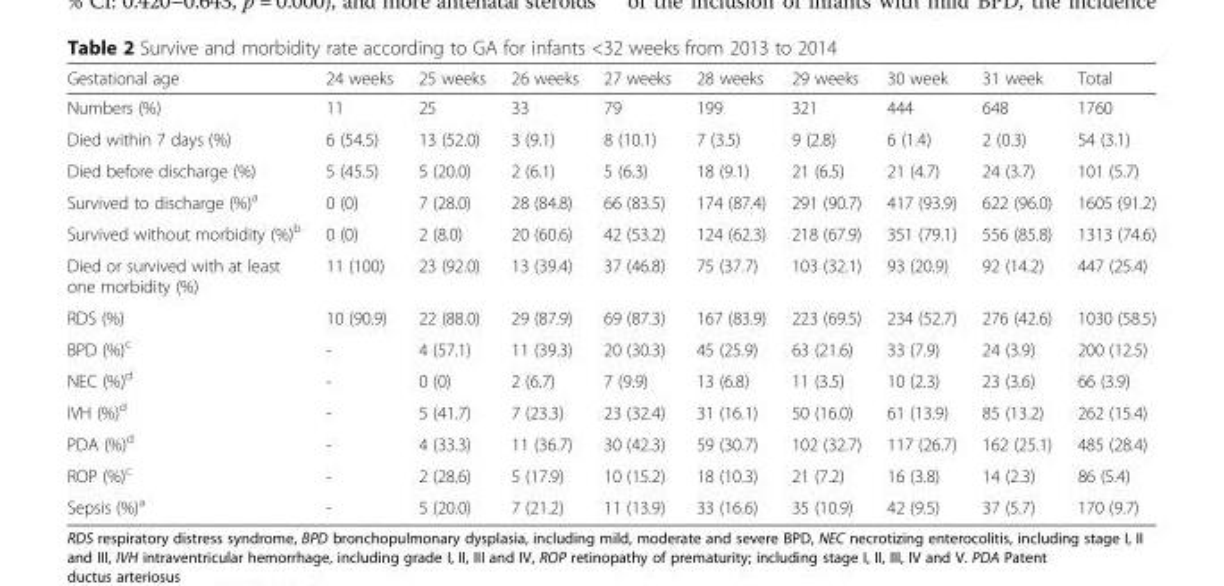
<table><thead><tr><td>Gestational age</td><td>24 weeks</td><td>25 weeks</td><td>26 weeks</td><td>27 weeks</td><td>28 weeks</td><td>29 weeks</td><td>30 week</td><td>31 week</td><td>Total</td></tr></thead><tbody><tr><td>Numbers (%)</td><td>11</td><td>25</td><td>33</td><td>79</td><td>199</td><td>321</td><td>444</td><td>648</td><td>1760</td></tr><tr><td>Died within 7 days (%)</td><td>6 (54.5)</td><td>13 (52.0)</td><td>3 (9.1)</td><td>8 (10.1)</td><td>7 (3.5)</td><td>9 (2.8)</td><td>6 (1.4)</td><td>2 (0.3)</td><td>54 (3.1)</td></tr><tr><td>Died before discharge (%)</td><td>5 (45.5)</td><td>5 (20.0)</td><td>2 (6.1)</td><td>5 (6.3)</td><td>18 (9.1)</td><td>21 (6.5)</td><td>21 (4.7)</td><td>24 (3.7)</td><td>101 (5.7)</td></tr><tr><td>Survived to discharge (%)<sup>a</sup></td><td>0 (0)</td><td>7 (28.0)</td><td>28 (84.8)</td><td>66 (83.5)</td><td>174 (87.4)</td><td>291 (90.7)</td><td>417 (93.9)</td><td>622 (96.0)</td><td>1605 (91.2)</td></tr><tr><td>Survived without morbidity (%)<sup>b</sup></td><td>0 (0)</td><td>2 (8.0)</td><td>20 (60.6)</td><td>42 (53.2)</td><td>124 (62.3)</td><td>218 (67.9)</td><td>351 (79.1)</td><td>556 (85.8)</td><td>1313 (74.6)</td></tr><tr><td>Died or survived with at least one morbidity (%)</td><td>11 (100)</td><td>23 (92.0)</td><td>13 (39.4)</td><td>37 (46.8)</td><td>75 (37.7)</td><td>103 (32.1)</td><td>93 (20.9)</td><td>92 (14.2)</td><td>447 (25.4)</td></tr><tr><td>RDS (%)</td><td>10 (90.9)</td><td>22 (88.0)</td><td>29 (87.9)</td><td>69 (87.3)</td><td>167 (83.9)</td><td>223 (69.5)</td><td>234 (52.7)</td><td>276 (42.6)</td><td>1030 (58.5)</td></tr><tr><td>BPD (%)<sup>c</sup></td><td>-</td><td>4 (57.1)</td><td>11 (39.3)</td><td>20 (30.3)</td><td>45 (25.9)</td><td>63 (21.6)</td><td>33 (7.9)</td><td>24 (3.9)</td><td>200 (12.5)</td></tr><tr><td>NEC (%)<sup>d</sup></td><td>-</td><td>0 (0)</td><td>2 (6.7)</td><td>7 (9.9)</td><td>13 (6.8)</td><td>11 (3.5)</td><td>10 (2.3)</td><td>23 (3.6)</td><td>66 (3.9)</td></tr><tr><td>IVH (%)<sup>d</sup></td><td>-</td><td>5 (41.7)</td><td>7 (23.3)</td><td>23 (32.4)</td><td>31 (16.1)</td><td>50 (16.0)</td><td>61 (13.9)</td><td>85 (13.2)</td><td>262 (15.4)</td></tr><tr><td>PDA (%)<sup>d</sup></td><td>-</td><td>4 (33.3)</td><td>11 (36.7)</td><td>30 (42.3)</td><td>59 (30.7)</td><td>102 (32.7)</td><td>117 (26.7)</td><td>162 (25.1)</td><td>485 (28.4)</td></tr><tr><td>ROP (%)<sup>c</sup></td><td>-</td><td>2 (28.6)</td><td>5 (17.9)</td><td>10 (15.2)</td><td>18 (10.3)</td><td>21 (7.2)</td><td>16 (3.8)</td><td>14 (2.3)</td><td>86 (5.4)</td></tr><tr><td>Sepsis (%)<sup>a</sup></td><td>-</td><td>5 (20.0)</td><td>7 (21.2)</td><td>11 (13.9)</td><td>33 (16.6)</td><td>35 (10.9)</td><td>42 (9.5)</td><td>37 (5.7)</td><td>170 (9.7)</td></tr></tbody></table>